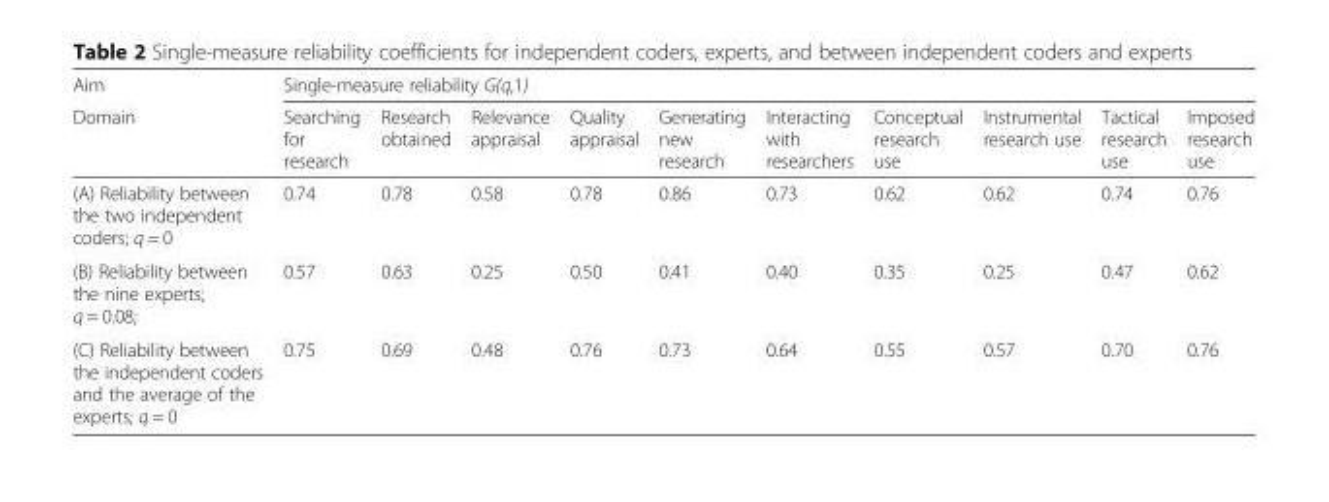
<table><thead><tr><td rowspan="2">Aim Domain</td><td colspan="10">Single-measure reliability G(q,1)</td></tr><tr><td>Searching for research</td><td>Research obtained</td><td>Relevance appraisal</td><td>Quality appraisal</td><td>Generating new research</td><td>Interacting with researchers</td><td>Conceptual research use</td><td>Instrumental research use</td><td>Tactical research use</td><td>Imposed research use</td></tr></thead><tbody><tr><td>(A) Reliability between the two independent coders; q = 0</td><td>0.74</td><td>0.78</td><td>0.58</td><td>0.78</td><td>0.86</td><td>0.73</td><td>0.62</td><td>0.62</td><td>0.74</td><td>0.76</td></tr><tr><td>(B) Reliability between the nine experts; q = 0.08;</td><td>0.57</td><td>0.63</td><td>0.25</td><td>0.50</td><td>0.41</td><td>0.40</td><td>0.35</td><td>0.25</td><td>0.47</td><td>0.62</td></tr><tr><td>(C) Reliability between the independent coders and the average of the experts; q = 0</td><td>0.75</td><td>0.69</td><td>0.48</td><td>0.76</td><td>0.73</td><td>0.64</td><td>0.55</td><td>0.57</td><td>0.70</td><td>0.76</td></tr></tbody></table>